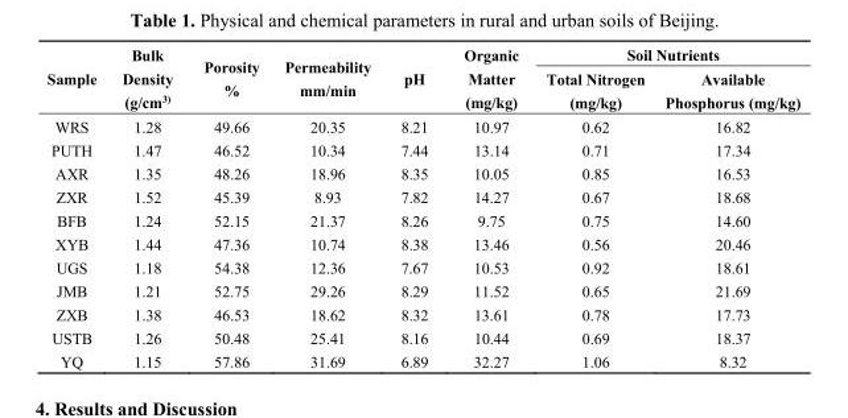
<table><thead><tr><td rowspan="2">Sample</td><td rowspan="2">Bulk Density (g/cm<sup>3)</sup></td><td rowspan="2">Porosity %</td><td rowspan="2">Permeability mm/min</td><td rowspan="2">pH</td><td rowspan="2">Organic Matter (mg/kg)</td><td colspan="2">Soil Nutrients</td></tr><tr><td>Total Nitrogen (mg/kg)</td><td>Available Phosphorus (mg/kg)</td></tr></thead><tbody><tr><td>WRS</td><td>1.28</td><td>49.66</td><td>20.35</td><td>8.21</td><td>10.97</td><td>0.62</td><td>16.82</td></tr><tr><td>PUTH</td><td>1.47</td><td>46.52</td><td>10.34</td><td>7.44</td><td>13.14</td><td>0.71</td><td>17.34</td></tr><tr><td>AXR</td><td>1.35</td><td>48.26</td><td>18.96</td><td>8.35</td><td>10.05</td><td>0.85</td><td>16.53</td></tr><tr><td>ZXR</td><td>1.52</td><td>45.39</td><td>8.93</td><td>7.82</td><td>14.27</td><td>0.67</td><td>18.68</td></tr><tr><td>BFB</td><td>1.24</td><td>52.15</td><td>21.37</td><td>8.26</td><td>9.75</td><td>0.75</td><td>14.60</td></tr><tr><td>XYB</td><td>1.44</td><td>47.36</td><td>10.74</td><td>8.38</td><td>13.46</td><td>0.56</td><td>20.46</td></tr><tr><td>UGS</td><td>1.18</td><td>54.38</td><td>12.36</td><td>7.67</td><td>10.53</td><td>0.92</td><td>18.61</td></tr><tr><td>JMB</td><td>1.21</td><td>52.75</td><td>29.26</td><td>8.29</td><td>11.52</td><td>0.65</td><td>21.69</td></tr><tr><td>ZXB</td><td>1.38</td><td>46.53</td><td>18.62</td><td>8.32</td><td>13.61</td><td>0.78</td><td>17.73</td></tr><tr><td>USTB</td><td>1.26</td><td>50.48</td><td>25.41</td><td>8.16</td><td>10.44</td><td>0.69</td><td>18.37</td></tr><tr><td>YQ</td><td>1.15</td><td>57.86</td><td>31.69</td><td>6.89</td><td>32.27</td><td>1.06</td><td>8.32</td></tr></tbody></table>